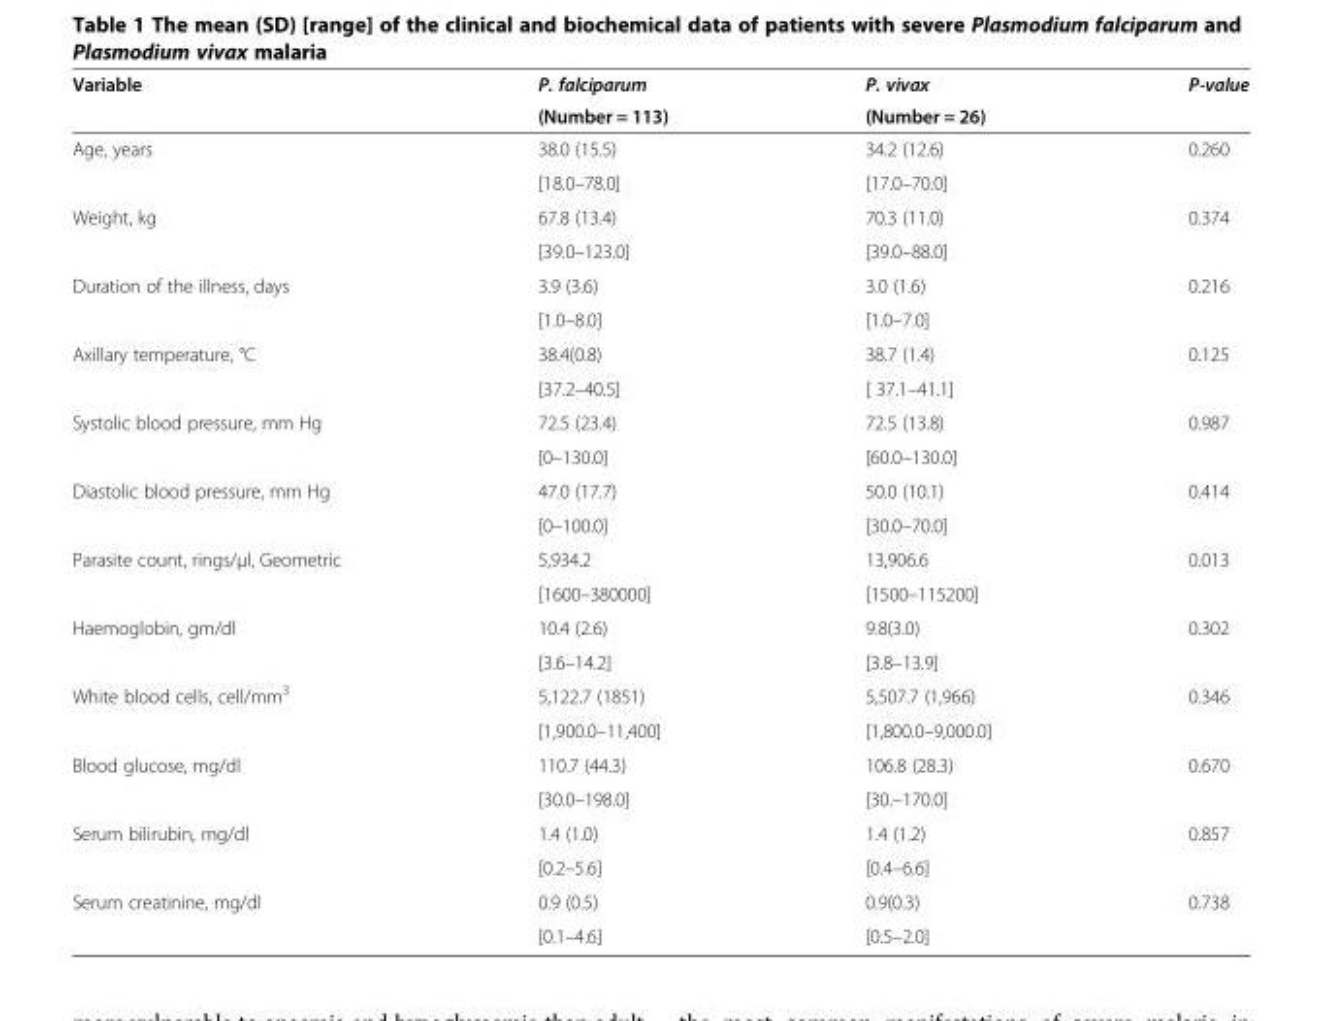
<table><thead><tr><td rowspan="2">Variable</td><td rowspan="2">P. falciparum (Number = 113)</td><td rowspan="2">P. vivax (Number = 26)</td><td rowspan="2">P-value</td></tr><tr></tr></thead><tbody><tr><td rowspan="2">Age, years</td><td>38.0 (15.5)</td><td>34.2 (12.6)</td><td rowspan="2">0.260</td></tr><tr><td>[18.0–78.0]</td><td>[17.0–70.0]</td></tr><tr><td rowspan="2">Weight, kg</td><td>67.8 (13.4)</td><td>70.3 (11.0)</td><td rowspan="2">0.374</td></tr><tr><td>[39.0–123.0]</td><td>[39.0–88.0]</td></tr><tr><td rowspan="2">Duration of the illness, days</td><td>3.9 (3.6)</td><td>3.0 (1.6)</td><td rowspan="2">0.216</td></tr><tr><td>[1.0–8.0]</td><td>[1.0–7.0]</td></tr><tr><td rowspan="2">Axillary temperature, °C</td><td>38.4(0.8)</td><td>38.7 (1.4)</td><td rowspan="2">0.125</td></tr><tr><td>[37.2–40.5]</td><td>[ 37.1–41.1]</td></tr><tr><td rowspan="2">Systolic blood pressure, mm Hg</td><td>72.5 (23.4)</td><td>72.5 (13.8)</td><td rowspan="2">0.987</td></tr><tr><td>[0–130.0]</td><td>[60.0–130.0]</td></tr><tr><td rowspan="2">Diastolic blood pressure, mm Hg</td><td>47.0 (17.7)</td><td>50.0 (10.1)</td><td rowspan="2">0.414</td></tr><tr><td>[0–100.0]</td><td>[30.0–70.0]</td></tr><tr><td rowspan="2">Parasite count, rings/μl, Geometric</td><td>5,934.2</td><td>13,906.6</td><td rowspan="2">0.013</td></tr><tr><td>[1600–380000]</td><td>[1500–115200]</td></tr><tr><td rowspan="2">Haemoglobin, gm/dl</td><td>10.4 (2.6)</td><td>9.8(3.0)</td><td rowspan="2">0.302</td></tr><tr><td>[3.6–14.2]</td><td>[3.8–13.9]</td></tr><tr><td rowspan="2">White blood cells, cell/mm<sup>3</sup></td><td>5,122.7 (1851)</td><td>5,507.7 (1,966)</td><td rowspan="2">0.346</td></tr><tr><td>[1,900.0–11,400]</td><td>[1,800.0–9,000.0]</td></tr><tr><td rowspan="2">Blood glucose, mg/dl</td><td>110.7 (44.3)</td><td>106.8 (28.3)</td><td rowspan="2">0.670</td></tr><tr><td>[30.0–198.0]</td><td>[30.–170.0]</td></tr><tr><td rowspan="2">Serum bilirubin, mg/dl</td><td>1.4 (1.0)</td><td>1.4 (1.2)</td><td rowspan="2">0.857</td></tr><tr><td>[0.2–5.6]</td><td>[0.4–6.6]</td></tr><tr><td rowspan="2">Serum creatinine, mg/dl</td><td>0.9 (0.5)</td><td>0.9(0.3)</td><td>0.738</td></tr><tr><td>[0.1–4.6]</td><td>[0.5–2.0]</td><td></td></tr></tbody></table>